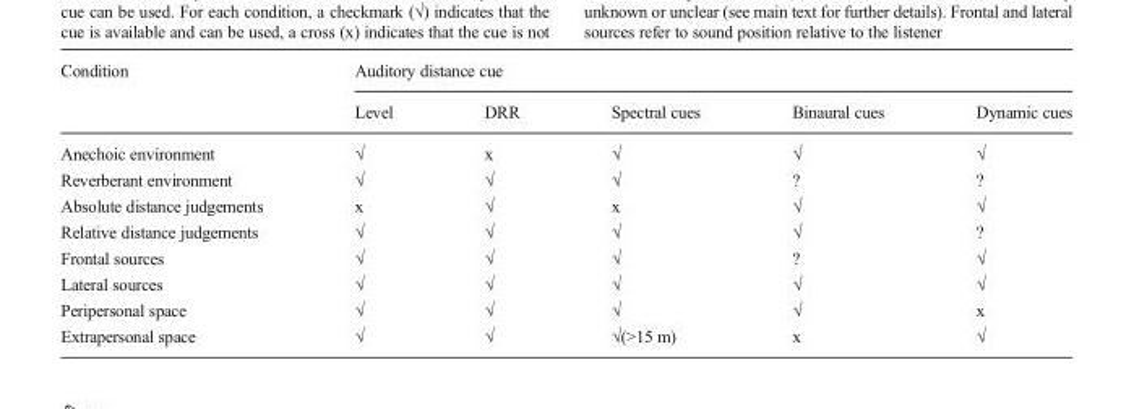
<table><thead><tr><td rowspan="2">Condition</td><td colspan="5">Auditory distance cue</td></tr><tr><td>Level</td><td>DRR</td><td>Spectral cues</td><td>Binaural cues</td><td>Dynamic cues</td></tr></thead><tbody><tr><td>Anechoic environment</td><td>√</td><td>x</td><td>√</td><td>√</td><td>√</td></tr><tr><td>Reverberant environment</td><td>√</td><td>√</td><td>√</td><td>?</td><td>?</td></tr><tr><td>Absolute distance judgements</td><td>x</td><td>√</td><td>x</td><td>√</td><td>√</td></tr><tr><td>Relative distance judgements</td><td>√</td><td>√</td><td>√</td><td>√</td><td>?</td></tr><tr><td>Frontal sources</td><td>√</td><td>√</td><td>√</td><td>?</td><td>√</td></tr><tr><td>Lateral sources</td><td>√</td><td>√</td><td>√</td><td>√</td><td>√</td></tr><tr><td>Peripersonal space</td><td>√</td><td>√</td><td>√</td><td>√</td><td>x</td></tr><tr><td>Extrapersonal space</td><td>√</td><td>√</td><td>√(&gt;15 m)</td><td>x</td><td>√</td></tr></tbody></table>